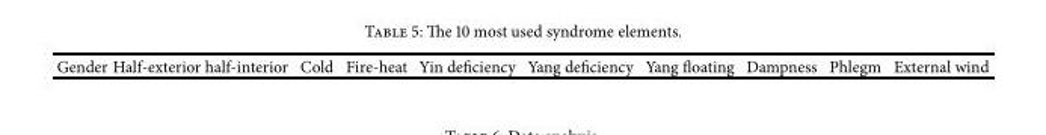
<table><tbody><tr><td>Gender</td><td>Half-exterior half-interior</td><td>Cold</td><td>Fire-heat</td><td>Yin deficiency</td><td>Yang deficiency</td><td>Yang floating</td><td>Dampness</td><td>Phlegm</td><td>External wind</td></tr></tbody></table>